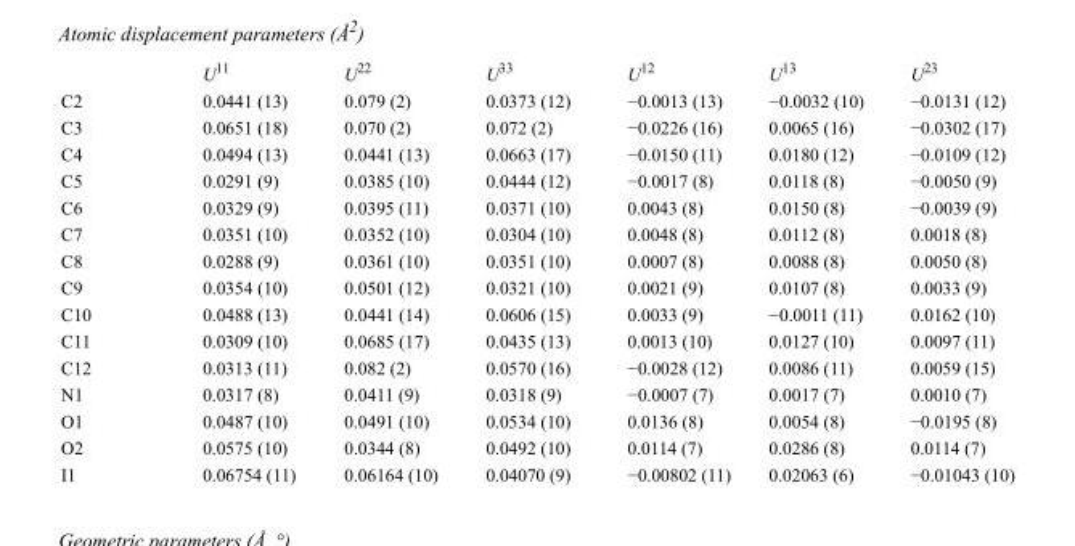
<table><thead><tr><td></td><td>U<sup>11</sup></td><td>U<sup>22</sup></td><td>U<sup>33</sup></td><td>U<sup>12</sup></td><td>U<sup>13</sup></td><td>U<sup>23</sup></td></tr></thead><tbody><tr><td>C2</td><td>0.0441 (13)</td><td>0.079 (2)</td><td>0.0373 (12)</td><td>−0.0013 (13)</td><td>−0.0032 (10)</td><td>−0.0131 (12)</td></tr><tr><td>C3</td><td>0.0651 (18)</td><td>0.070 (2)</td><td>0.072 (2)</td><td>−0.0226 (16)</td><td>0.0065 (16)</td><td>−0.0302 (17)</td></tr><tr><td>C4</td><td>0.0494 (13)</td><td>0.0441 (13)</td><td>0.0663 (17)</td><td>−0.0150 (11)</td><td>0.0180 (12)</td><td>−0.0109 (12)</td></tr><tr><td>C5</td><td>0.0291 (9)</td><td>0.0385 (10)</td><td>0.0444 (12)</td><td>−0.0017 (8)</td><td>0.0118 (8)</td><td>−0.0050 (9)</td></tr><tr><td>C6</td><td>0.0329 (9)</td><td>0.0395 (11)</td><td>0.0371 (10)</td><td>0.0043 (8)</td><td>0.0150 (8)</td><td>−0.0039 (9)</td></tr><tr><td>C7</td><td>0.0351 (10)</td><td>0.0352 (10)</td><td>0.0304 (10)</td><td>0.0048 (8)</td><td>0.0112 (8)</td><td>0.0018 (8)</td></tr><tr><td>C8</td><td>0.0288 (9)</td><td>0.0361 (10)</td><td>0.0351 (10)</td><td>0.0007 (8)</td><td>0.0088 (8)</td><td>0.0050 (8)</td></tr><tr><td>C9</td><td>0.0354 (10)</td><td>0.0501 (12)</td><td>0.0321 (10)</td><td>0.0021 (9)</td><td>0.0107 (8)</td><td>0.0033 (9)</td></tr><tr><td>C10</td><td>0.0488 (13)</td><td>0.0441 (14)</td><td>0.0606 (15)</td><td>0.0033 (9)</td><td>−0.0011 (11)</td><td>0.0162 (10)</td></tr><tr><td>C11</td><td>0.0309 (10)</td><td>0.0685 (17)</td><td>0.0435 (13)</td><td>0.0013 (10)</td><td>0.0127 (10)</td><td>0.0097 (11)</td></tr><tr><td>C12</td><td>0.0313 (11)</td><td>0.082 (2)</td><td>0.0570 (16)</td><td>−0.0028 (12)</td><td>0.0086 (11)</td><td>0.0059 (15)</td></tr><tr><td>N1</td><td>0.0317 (8)</td><td>0.0411 (9)</td><td>0.0318 (9)</td><td>−0.0007 (7)</td><td>0.0017 (7)</td><td>0.0010 (7)</td></tr><tr><td>O1</td><td>0.0487 (10)</td><td>0.0491 (10)</td><td>0.0534 (10)</td><td>0.0136 (8)</td><td>0.0054 (8)</td><td>−0.0195 (8)</td></tr><tr><td>O2</td><td>0.0575 (10)</td><td>0.0344 (8)</td><td>0.0492 (10)</td><td>0.0114 (7)</td><td>0.0286 (8)</td><td>0.0114 (7)</td></tr><tr><td>I1</td><td>0.06754 (11)</td><td>0.06164 (10)</td><td>0.04070 (9)</td><td>−0.00802 (11)</td><td>0.02063 (6)</td><td>−0.01043 (10)</td></tr></tbody></table>